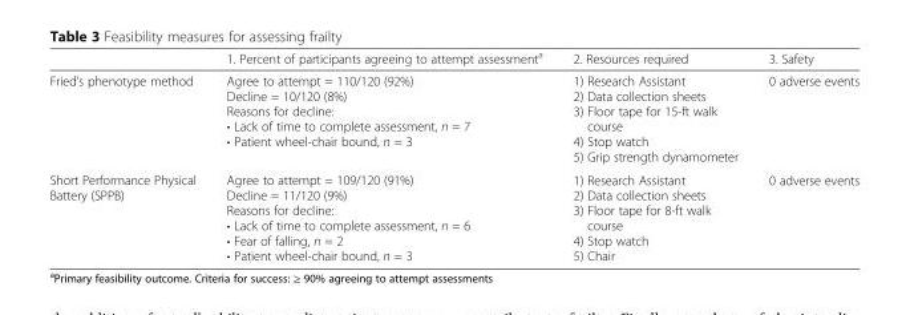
<table><thead><tr><td></td><td>1. Percent of participants agreeing to attempt assessment<sup>a</sup></td><td>2. Resources required</td><td>3. Safety</td></tr></thead><tbody><tr><td>Fried’s phenotype method</td><td>Agree to attempt = 110/120 (92%) Decline = 10/120 (8%) Reasons for decline: • Lack of time to complete assessment, n = 7 • Patient wheel-chair bound, n = 3</td><td>1) Research Assistant 2) Data collection sheets 3) Floor tape for 15-ft walk course 4) Stop watch 5) Grip strength dynamometer</td><td>0 adverse events</td></tr><tr><td>Short Performance Physical Battery (SPPB)</td><td>Agree to attempt = 109/120 (91%) Decline = 11/120 (9%) Reasons for decline: • Lack of time to complete assessment, n = 6 • Fear of falling, n = 2 • Patient wheel-chair bound, n = 3</td><td>1) Research Assistant 2) Data collection sheets 3) Floor tape for 8-ft walk course 4) Stop watch 5) Chair</td><td>0 adverse events</td></tr></tbody></table>